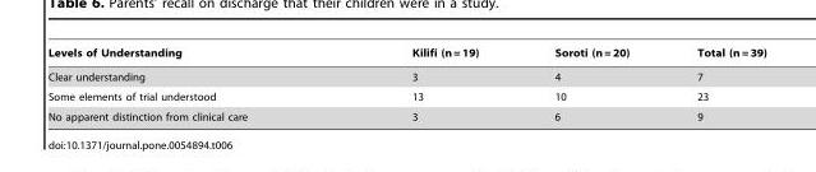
<table><thead><tr><td>Levels of Understanding</td><td>Kilifi (n = 19)</td><td>Soroti (n = 20)</td><td>Total (n = 39)</td></tr></thead><tbody><tr><td>Clear understanding</td><td>3</td><td>4</td><td>7</td></tr><tr><td>Some elements of trial understood</td><td>13</td><td>10</td><td>23</td></tr><tr><td>No apparent distinction from clinical care</td><td>3</td><td>6</td><td>9</td></tr></tbody></table>